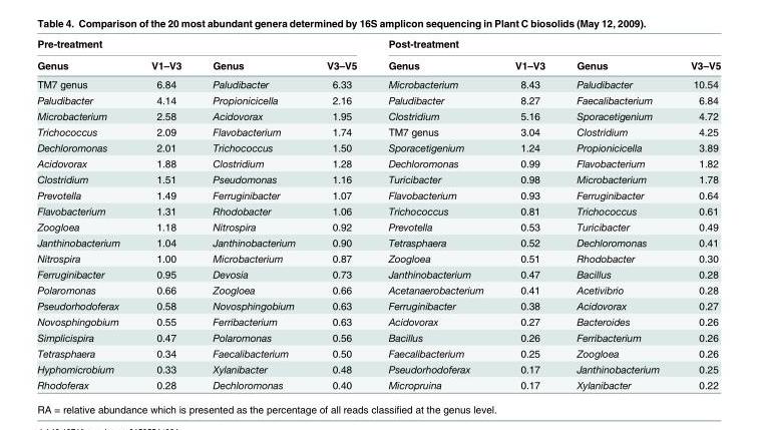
<table><thead><tr><td rowspan="2">Pre-treatment Genus</td><td rowspan="2">V1–V3</td><td rowspan="2">Genus</td><td rowspan="2">V3–V5</td><td rowspan="2">Post-treatment Genus</td><td rowspan="2">V1–V3</td><td rowspan="2">Genus</td><td rowspan="2">V3–V5</td></tr><tr></tr></thead><tbody><tr><td>TM7 genus</td><td>6.84</td><td>Paludibacter</td><td>6.33</td><td>Microbacterium</td><td>8.43</td><td>Paludibacter</td><td>10.54</td></tr><tr><td>Paludibacter</td><td>4.14</td><td>Propionicicella</td><td>2.16</td><td>Paludibacter</td><td>8.27</td><td>Faecalibacterium</td><td>6.84</td></tr><tr><td>Microbacterium</td><td>2.58</td><td>Acidovorax</td><td>1.95</td><td>Clostridium</td><td>5.16</td><td>Sporacetigenium</td><td>4.72</td></tr><tr><td>Trichococcus</td><td>2.09</td><td>Flavobacterium</td><td>1.74</td><td>TM7 genus</td><td>3.04</td><td>Clostridium</td><td>4.25</td></tr><tr><td>Dechloromonas</td><td>2.01</td><td>Trichococcus</td><td>1.50</td><td>Sporacetigenium</td><td>1.24</td><td>Propionicicella</td><td>3.89</td></tr><tr><td>Acidovorax</td><td>1.88</td><td>Clostridium</td><td>1.28</td><td>Dechloromonas</td><td>0.99</td><td>Flavobacterium</td><td>1.82</td></tr><tr><td>Clostridium</td><td>1.51</td><td>Pseudomonas</td><td>1.16</td><td>Turicibacter</td><td>0.98</td><td>Microbacterium</td><td>1.78</td></tr><tr><td>Prevotella</td><td>1.49</td><td>Ferruginibacter</td><td>1.07</td><td>Flavobacterium</td><td>0.93</td><td>Ferruginibacter</td><td>0.64</td></tr><tr><td>Flavobacterium</td><td>1.31</td><td>Rhodobacter</td><td>1.06</td><td>Trichococcus</td><td>0.81</td><td>Trichococcus</td><td>0.61</td></tr><tr><td>Zoogloea</td><td>1.18</td><td>Nitrospira</td><td>0.92</td><td>Prevotella</td><td>0.53</td><td>Turicibacter</td><td>0.49</td></tr><tr><td>Janthinobacterium</td><td>1.04</td><td>Janthinobacterium</td><td>0.90</td><td>Tetrasphaera</td><td>0.52</td><td>Dechloromonas</td><td>0.41</td></tr><tr><td>Nitrospira</td><td>1.00</td><td>Microbacterium</td><td>0.87</td><td>Zoogloea</td><td>0.51</td><td>Rhodobacter</td><td>0.30</td></tr><tr><td>Ferruginibacter</td><td>0.95</td><td>Devosia</td><td>0.73</td><td>Janthinobacterium</td><td>0.47</td><td>Bacillus</td><td>0.28</td></tr><tr><td>Polaromonas</td><td>0.66</td><td>Zoogloea</td><td>0.66</td><td>Acetanaerobacterium</td><td>0.41</td><td>Acetivibrio</td><td>0.28</td></tr><tr><td>Pseudorhodoferax</td><td>0.58</td><td>Novosphingobium</td><td>0.63</td><td>Ferruginibacter</td><td>0.38</td><td>Acidovorax</td><td>0.27</td></tr><tr><td>Novosphingobium</td><td>0.55</td><td>Ferribacterium</td><td>0.63</td><td>Acidovorax</td><td>0.27</td><td>Bacteroides</td><td>0.26</td></tr><tr><td>Simplicispira</td><td>0.47</td><td>Polaromonas</td><td>0.56</td><td>Bacillus</td><td>0.26</td><td>Ferribacterium</td><td>0.26</td></tr><tr><td>Tetrasphaera</td><td>0.34</td><td>Faecalibacterium</td><td>0.50</td><td>Faecalibacterium</td><td>0.25</td><td>Zoogloea</td><td>0.26</td></tr><tr><td>Hyphomicrobium</td><td>0.33</td><td>Xylanibacter</td><td>0.48</td><td>Pseudorhodoferax</td><td>0.17</td><td>Janthinobacterium</td><td>0.25</td></tr><tr><td>Rhodoferax</td><td>0.28</td><td>Dechloromonas</td><td>0.40</td><td>Micropruina</td><td>0.17</td><td>Xylanibacter</td><td>0.22</td></tr></tbody></table>